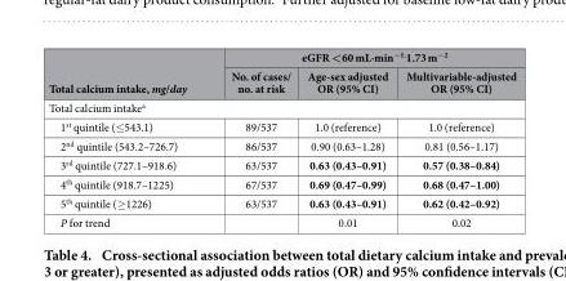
<table><thead><tr><td rowspan="2">Total calcium intake, mg/day</td><td colspan="3">eGFR &lt;60 mL·min<sup>−1.</sup>1.73 m<sup>−2</sup></td></tr><tr><td>No. of cases/ no. at risk</td><td>Age-sex adjusted OR (95% CI)</td><td>Multivariable-adjusted OR (95% CI)</td></tr></thead><tbody><tr><td colspan="4">Total calcium intake<sup>a</sup></td></tr><tr><td>1<sup>st</sup> quintile (≤ 543.1)</td><td>89/537</td><td>1.0 (reference)</td><td>1.0 (reference)</td></tr><tr><td>2<sup>nd</sup> quintile (543.2–726.7)</td><td>86/537</td><td>0.90 (0.63–1.28)</td><td>0.81 (0.56–1.17)</td></tr><tr><td>3<sup>rd</sup> quintile (727.1–918.6)</td><td>63/537</td><td>0.63 (0.43–0.91)</td><td>0.57 (0.38–0.84)</td></tr><tr><td>4<sup>th</sup> quintile (918.7–1225)</td><td>67/537</td><td>0.69 (0.47–0.99)</td><td>0.68 (0.47–1.00)</td></tr><tr><td>5<sup>th</sup> quintile (≥ 1226)</td><td>63/537</td><td>0.63 (0.43–0.91)</td><td>0.62 (0.42–0.92)</td></tr><tr><td>P for trend</td><td></td><td>0.01</td><td>0.02</td></tr></tbody></table>